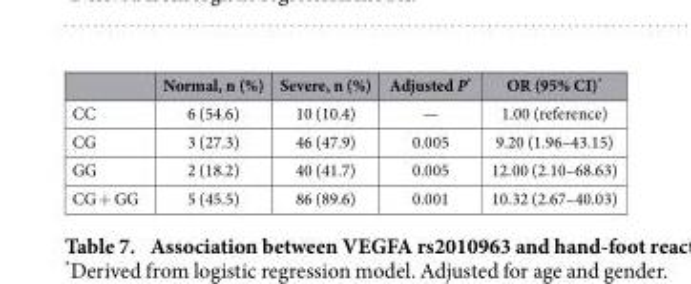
<table><thead><tr><td></td><td>Normal, n (%)</td><td>Severe, n (%)</td><td>Adjusted P*</td><td>OR (95% CI)*</td></tr></thead><tbody><tr><td>CC</td><td>6 (54.6)</td><td>10 (10.4)</td><td>—</td><td>1.00 (reference)</td></tr><tr><td>CG</td><td>3 (27.3)</td><td>46 (47.9)</td><td>0.005</td><td>9.20 (1.96–43.15)</td></tr><tr><td>GG</td><td>2 (18.2)</td><td>40 (41.7)</td><td>0.005</td><td>12.00 (2.10–68.63)</td></tr><tr><td>CG + GG</td><td>5 (45.5)</td><td>86 (89.6)</td><td>0.001</td><td>10.32 (2.67–40.03)</td></tr></tbody></table>